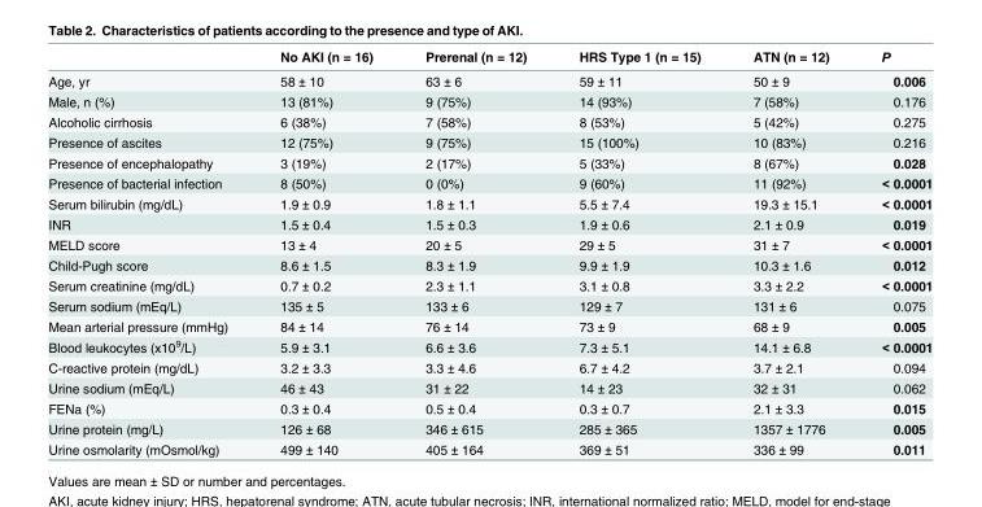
<table><thead><tr><td></td><td>No AKI (n = 16)</td><td>Prerenal (n = 12)</td><td>HRS Type 1 (n = 15)</td><td>ATN (n = 12)</td><td>P</td></tr></thead><tbody><tr><td>Age, yr</td><td>58 ± 10</td><td>63 ± 6</td><td>59 ± 11</td><td>50 ± 9</td><td>0.006</td></tr><tr><td>Male, n (%)</td><td>13 (81%)</td><td>9 (75%)</td><td>14 (93%)</td><td>7 (58%)</td><td>0.176</td></tr><tr><td>Alcoholic cirrhosis</td><td>6 (38%)</td><td>7 (58%)</td><td>8 (53%)</td><td>5 (42%)</td><td>0.275</td></tr><tr><td>Presence of ascites</td><td>12 (75%)</td><td>9 (75%)</td><td>15 (100%)</td><td>10 (83%)</td><td>0.216</td></tr><tr><td>Presence of encephalopathy</td><td>3 (19%)</td><td>2 (17%)</td><td>5 (33%)</td><td>8 (67%)</td><td>0.028</td></tr><tr><td>Presence of bacterial infection</td><td>8 (50%)</td><td>0 (0%)</td><td>9 (60%)</td><td>11 (92%)</td><td>&lt; 0.0001</td></tr><tr><td>Serum bilirubin (mg/dL)</td><td>1.9 ± 0.9</td><td>1.8 ± 1.1</td><td>5.5 ± 7.4</td><td>19.3 ± 15.1</td><td>&lt; 0.0001</td></tr><tr><td>INR</td><td>1.5 ± 0.4</td><td>1.5 ± 0.3</td><td>1.9 ± 0.6</td><td>2.1 ± 0.9</td><td>0.019</td></tr><tr><td>MELD score</td><td>13 ± 4</td><td>20 ± 5</td><td>29 ± 5</td><td>31 ± 7</td><td>&lt; 0.0001</td></tr><tr><td>Child-Pugh score</td><td>8.6 ± 1.5</td><td>8.3 ± 1.9</td><td>9.9 ± 1.9</td><td>10.3 ± 1.6</td><td>0.012</td></tr><tr><td>Serum creatinine (mg/dL)</td><td>0.7 ± 0.2</td><td>2.3 ± 1.1</td><td>3.1 ± 0.8</td><td>3.3 ± 2.2</td><td>&lt; 0.0001</td></tr><tr><td>Serum sodium (mEq/L)</td><td>135 ± 5</td><td>133 ± 6</td><td>129 ± 7</td><td>131 ± 6</td><td>0.075</td></tr><tr><td>Mean arterial pressure (mmHg)</td><td>84 ± 14</td><td>76 ± 14</td><td>73 ± 9</td><td>68 ± 9</td><td>0.005</td></tr><tr><td>Blood leukocytes (x10<sup>9</sup>/L)</td><td>5.9 ± 3.1</td><td>6.6 ± 3.6</td><td>7.3 ± 5.1</td><td>14.1 ± 6.8</td><td>&lt; 0.0001</td></tr><tr><td>C-reactive protein (mg/dL)</td><td>3.2 ± 3.3</td><td>3.3 ± 4.6</td><td>6.7 ± 4.2</td><td>3.7 ± 2.1</td><td>0.094</td></tr><tr><td>Urine sodium (mEq/L)</td><td>46 ± 43</td><td>31 ± 22</td><td>14 ± 23</td><td>32 ± 31</td><td>0.062</td></tr><tr><td>FENa (%)</td><td>0.3 ± 0.4</td><td>0.5 ± 0.4</td><td>0.3 ± 0.7</td><td>2.1 ± 3.3</td><td>0.015</td></tr><tr><td>Urine protein (mg/L)</td><td>126 ± 68</td><td>346 ± 615</td><td>285 ± 365</td><td>1357 ± 1776</td><td>0.005</td></tr><tr><td>Urine osmolarity (mOsmol/kg)</td><td>499 ± 140</td><td>405 ± 164</td><td>369 ± 51</td><td>336 ± 99</td><td>0.011</td></tr></tbody></table>